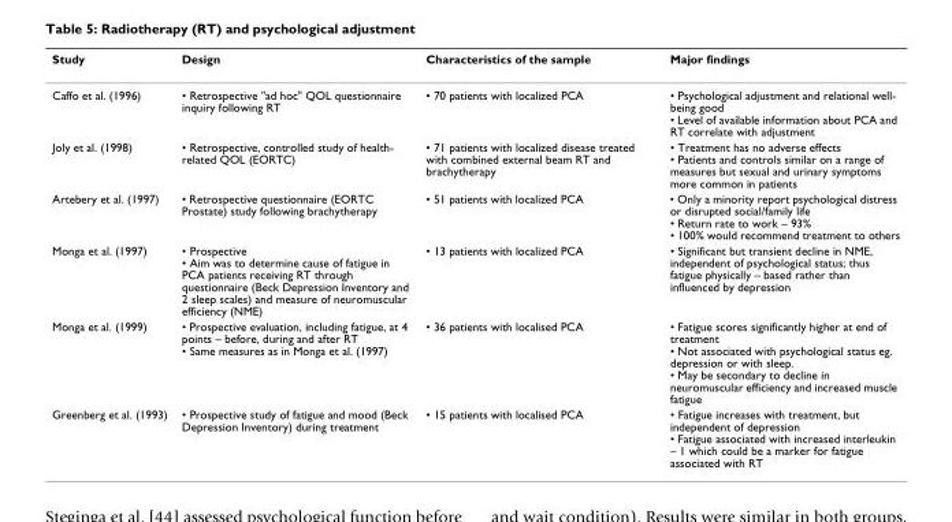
<table><thead><tr><td>Study</td><td>Design</td><td>Characteristics of the sample</td><td>Major findings</td></tr></thead><tbody><tr><td>Caffo et al. (1996)</td><td>• Retrospective &quot;ad hoc&quot; QOL questionnaire inquiry following RT</td><td>• 70 patients with localized PCA</td><td>• Psychological adjustment and relational well- being good • Level of available information about PCA and RT correlate with adjustment</td></tr><tr><td>Joly et al. (1998)</td><td>• Retrospective, controlled study of health- related QOL (EORTC)</td><td>• 71 patients with localized disease treated with combined external beam RT and brachytherapy</td><td>• Treatment has no adverse effects • Patients and controls similar on a range of measures but sexual and urinary symptoms more common in patients</td></tr><tr><td>Artebery et al. (1997)</td><td>• Retrospective questionnaire (EORTC Prostate) study following brachytherapy</td><td>• 51 patients with localized PCA</td><td>• Only a minority report psychological distress or disrupted social/family life • Return rate to work – 93% • 100% would recommend treatment to others</td></tr><tr><td>Monga et al. (1997)</td><td>• Prospective • Aim was to determine cause of fatigue in PCA patients receiving RT through questionnaire (Beck Depression Inventory and 2 sleep scales) and measure of neuromuscular efficiency (NME)</td><td>• 13 patients with localized PCA</td><td>• Significant but transient decline in NME, independent of psychological status; thus fatigue physically – based rather than influenced by depression</td></tr><tr><td>Monga et al. (1999)</td><td>• Prospective evaluation, including fatigue, at 4 points – before, during and after RT • Same measures as in Monga et al. (1997)</td><td>• 36 patients with localised PCA</td><td>• Fatigue scores significantly higher at end of treatment • Not associated with psychological status eg. depression or with sleep. • May be secondary to decline in neuromuscular efficiency and increased muscle fatigue</td></tr><tr><td>Greenberg et al. (1993)</td><td>• Prospective study of fatigue and mood (Beck Depression Inventory) during treatment</td><td>• 15 patients with localised PCA</td><td>• Fatigue increases with treatment, but independent of depression • Fatigue associated with increased interleukin – 1 which could be a marker for fatigue associated with RT</td></tr></tbody></table>